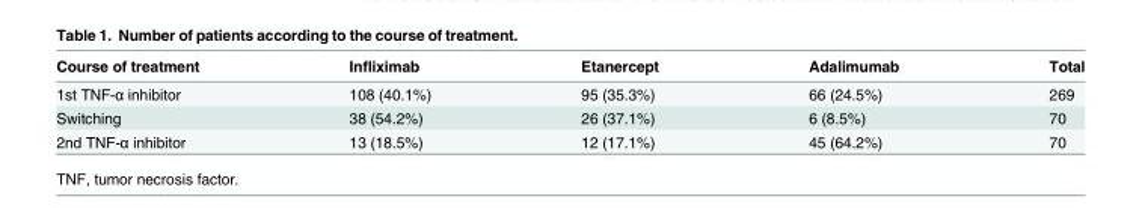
<table><thead><tr><td>Course of treatment</td><td>Infliximab</td><td>Etanercept</td><td>Adalimumab</td><td>Total</td></tr></thead><tbody><tr><td>1st TNF-α inhibitor</td><td>108 (40.1%)</td><td>95 (35.3%)</td><td>66 (24.5%)</td><td>269</td></tr><tr><td>Switching</td><td>38 (54.2%)</td><td>26 (37.1%)</td><td>6 (8.5%)</td><td>70</td></tr><tr><td>2nd TNF-α inhibitor</td><td>13 (18.5%)</td><td>12 (17.1%)</td><td>45 (64.2%)</td><td>70</td></tr></tbody></table>